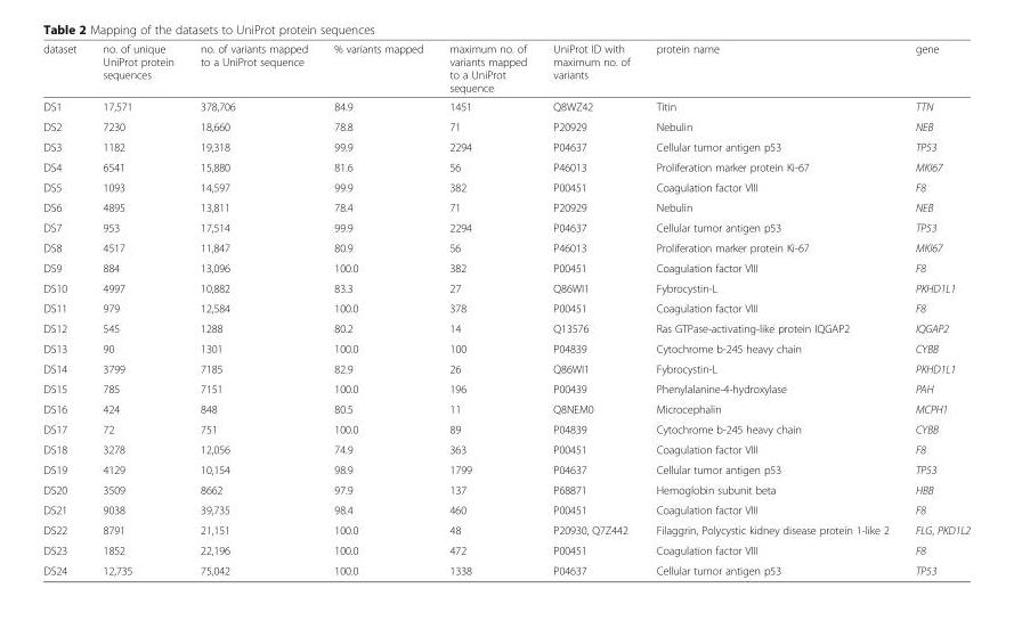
<table><thead><tr><td>dataset</td><td>no. of unique UniProt protein sequences</td><td>no. of variants mapped to a UniProt sequence</td><td>% variants mapped</td><td>maximum no. of variants mapped to a UniProt sequence</td><td>UniProt ID with maximum no. of variants</td><td>protein name</td><td>gene</td></tr></thead><tbody><tr><td>DS1</td><td>17,571</td><td>378,706</td><td>84.9</td><td>1451</td><td>Q8WZ42</td><td>Titin</td><td>TTN</td></tr><tr><td>DS2</td><td>7230</td><td>18,660</td><td>78.8</td><td>71</td><td>P20929</td><td>Nebulin</td><td>NEB</td></tr><tr><td>DS3</td><td>1182</td><td>19,318</td><td>99.9</td><td>2294</td><td>P04637</td><td>Cellular tumor antigen p53</td><td>TP53</td></tr><tr><td>DS4</td><td>6541</td><td>15,880</td><td>81.6</td><td>56</td><td>P46013</td><td>Proliferation marker protein Ki-67</td><td>MKI67</td></tr><tr><td>DS5</td><td>1093</td><td>14,597</td><td>99.9</td><td>382</td><td>P00451</td><td>Coagulation factor VIII</td><td>F8</td></tr><tr><td>DS6</td><td>4895</td><td>13,811</td><td>78.4</td><td>71</td><td>P20929</td><td>Nebulin</td><td>NEB</td></tr><tr><td>DS7</td><td>953</td><td>17,514</td><td>99.9</td><td>2294</td><td>P04637</td><td>Cellular tumor antigen p53</td><td>TP53</td></tr><tr><td>DS8</td><td>4517</td><td>11,847</td><td>80.9</td><td>56</td><td>P46013</td><td>Proliferation marker protein Ki-67</td><td>MKI67</td></tr><tr><td>DS9</td><td>884</td><td>13,096</td><td>100.0</td><td>382</td><td>P00451</td><td>Coagulation factor VIII</td><td>F8</td></tr><tr><td>DS10</td><td>4997</td><td>10,882</td><td>83.3</td><td>27</td><td>Q86WI1</td><td>Fybrocystin-L</td><td>PKHD1L1</td></tr><tr><td>DS11</td><td>979</td><td>12,584</td><td>100.0</td><td>378</td><td>P00451</td><td>Coagulation factor VIII</td><td>F8</td></tr><tr><td>DS12</td><td>545</td><td>1288</td><td>80.2</td><td>14</td><td>Q13576</td><td>Ras GTPase-activating-like protein IQGAP2</td><td>IQGAP2</td></tr><tr><td>DS13</td><td>90</td><td>1301</td><td>100.0</td><td>100</td><td>P04839</td><td>Cytochrome b-245 heavy chain</td><td>CYBB</td></tr><tr><td>DS14</td><td>3799</td><td>7185</td><td>82.9</td><td>26</td><td>Q86WI1</td><td>Fybrocystin-L</td><td>PKHD1L1</td></tr><tr><td>DS15</td><td>785</td><td>7151</td><td>100.0</td><td>196</td><td>P00439</td><td>Phenylalanine-4-hydroxylase</td><td>PAH</td></tr><tr><td>DS16</td><td>424</td><td>848</td><td>80.5</td><td>11</td><td>Q8NEM0</td><td>Microcephalin</td><td>MCPH1</td></tr><tr><td>DS17</td><td>72</td><td>751</td><td>100.0</td><td>89</td><td>P04839</td><td>Cytochrome b-245 heavy chain</td><td>CYBB</td></tr><tr><td>DS18</td><td>3278</td><td>12,056</td><td>74.9</td><td>363</td><td>P00451</td><td>Coagulation factor VIII</td><td>F8</td></tr><tr><td>DS19</td><td>4129</td><td>10,154</td><td>98.9</td><td>1799</td><td>P04637</td><td>Cellular tumor antigen p53</td><td>TP53</td></tr><tr><td>DS20</td><td>3509</td><td>8662</td><td>97.9</td><td>137</td><td>P68871</td><td>Hemoglobin subunit beta</td><td>HBB</td></tr><tr><td>DS21</td><td>9038</td><td>39,735</td><td>98.4</td><td>460</td><td>P00451</td><td>Coagulation factor VIII</td><td>F8</td></tr><tr><td>DS22</td><td>8791</td><td>21,151</td><td>100.0</td><td>48</td><td>P20930, Q7Z442</td><td>Filaggrin, Polycystic kidney disease protein 1-like 2</td><td>FLG, PKD1L2</td></tr><tr><td>DS23</td><td>1852</td><td>22,196</td><td>100.0</td><td>472</td><td>P00451</td><td>Coagulation factor VIII</td><td>F8</td></tr><tr><td>DS24</td><td>12,735</td><td>75,042</td><td>100.0</td><td>1338</td><td>P04637</td><td>Cellular tumor antigen p53</td><td>TP53</td></tr></tbody></table>